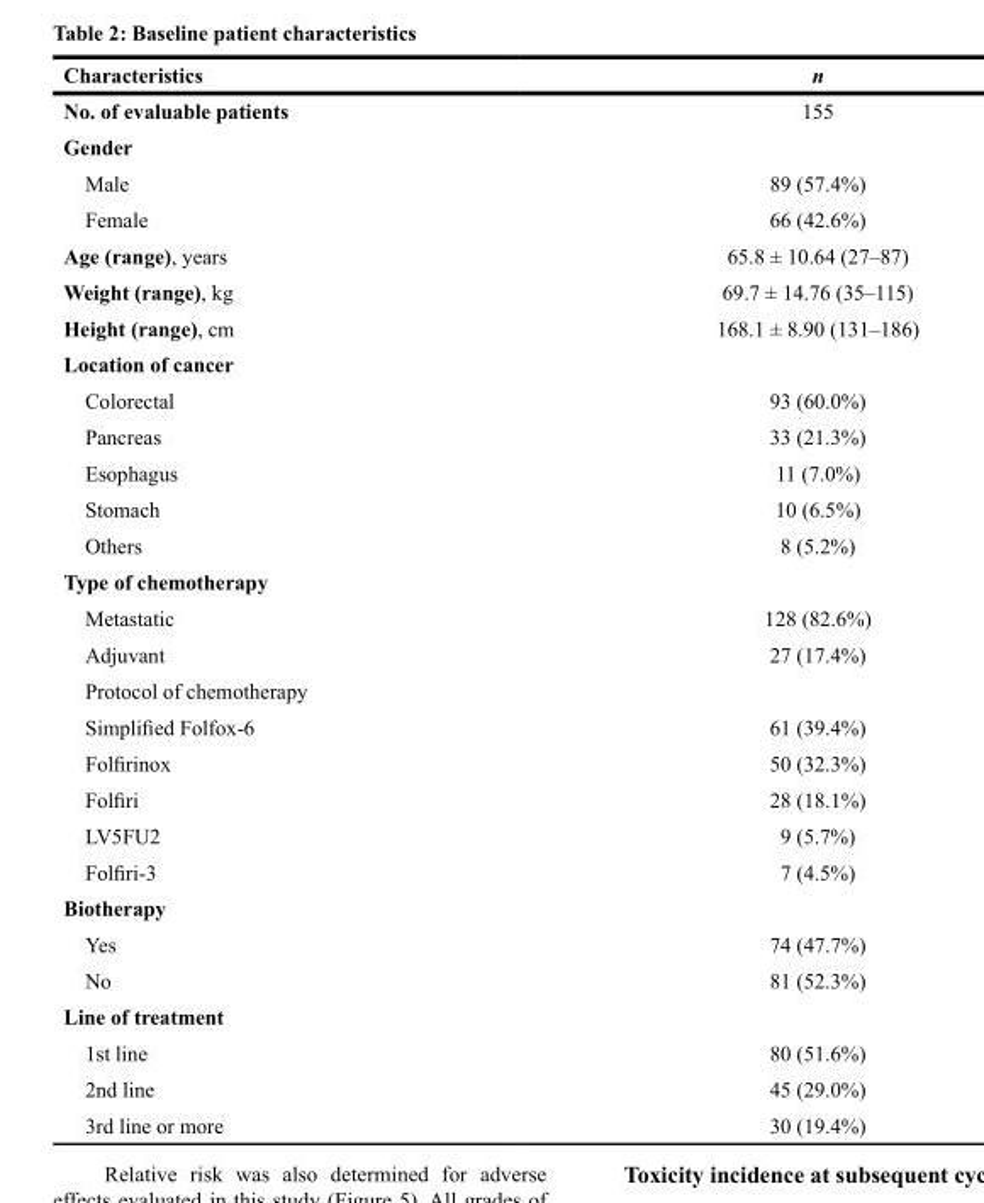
<table><thead><tr><td>Characteristics</td><td>n</td></tr></thead><tbody><tr><td>No. of evaluable patients</td><td>155</td></tr><tr><td colspan="2">Gender</td></tr><tr><td>Male</td><td>89 (57.4%)</td></tr><tr><td>Female</td><td>66 (42.6%)</td></tr><tr><td>Age (range), years</td><td>65.8 ± 10.64 (27–87)</td></tr><tr><td>Weight (range), kg</td><td>69.7 ± 14.76 (35–115)</td></tr><tr><td>Height (range), cm</td><td>168.1 ± 8.90 (131–186)</td></tr><tr><td colspan="2">Location of cancer</td></tr><tr><td>Colorectal</td><td>93 (60.0%)</td></tr><tr><td>Pancreas</td><td>33 (21.3%)</td></tr><tr><td>Esophagus</td><td>11 (7.0%)</td></tr><tr><td>Stomach</td><td>10 (6.5%)</td></tr><tr><td>Others</td><td>8 (5.2%)</td></tr><tr><td colspan="2">Type of chemotherapy</td></tr><tr><td>Metastatic</td><td>128 (82.6%)</td></tr><tr><td>Adjuvant</td><td>27 (17.4%)</td></tr><tr><td colspan="2">Protocol of chemotherapy</td></tr><tr><td>Simplified Folfox-6</td><td>61 (39.4%)</td></tr><tr><td>Folfirinox</td><td>50 (32.3%)</td></tr><tr><td>Folfiri</td><td>28 (18.1%)</td></tr><tr><td>LV5FU2</td><td>9 (5.7%)</td></tr><tr><td>Folfiri-3</td><td>7 (4.5%)</td></tr><tr><td colspan="2">Biotherapy</td></tr><tr><td>Yes</td><td>74 (47.7%)</td></tr><tr><td>No</td><td>81 (52.3%)</td></tr><tr><td colspan="2">Line of treatment</td></tr><tr><td>1st line</td><td>80 (51.6%)</td></tr><tr><td>2nd line</td><td>45 (29.0%)</td></tr><tr><td>3rd line or more</td><td>30 (19.4%)</td></tr></tbody></table>